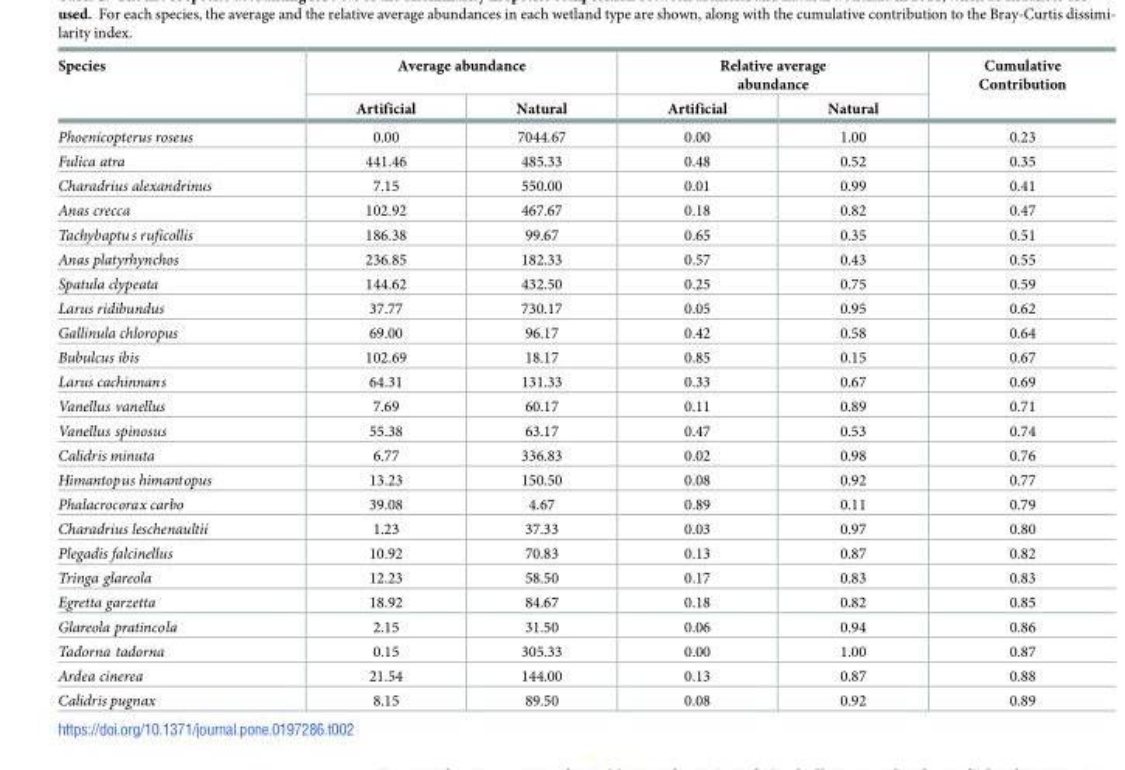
<table><thead><tr><td rowspan="2">Species</td><td colspan="2">Average abundance</td><td colspan="2">Relative average abundance</td><td rowspan="2">Cumulative Contribution</td></tr><tr><td>Artificial</td><td>Natural</td><td>Artificial</td><td>Natural</td></tr></thead><tbody><tr><td>Phoenicopterus roseus</td><td>0.00</td><td>7044.67</td><td>0.00</td><td>1.00</td><td>0.23</td></tr><tr><td>Fulica atra</td><td>441.46</td><td>485.33</td><td>0.48</td><td>0.52</td><td>0.35</td></tr><tr><td>Charadrius alexandrinus</td><td>7.15</td><td>550.00</td><td>0.01</td><td>0.99</td><td>0.41</td></tr><tr><td>Anas crecca</td><td>102.92</td><td>467.67</td><td>0.18</td><td>0.82</td><td>0.47</td></tr><tr><td>Tachybaptus ruficollis</td><td>186.38</td><td>99.67</td><td>0.65</td><td>0.35</td><td>0.51</td></tr><tr><td>Anas platyrhynchos</td><td>236.85</td><td>182.33</td><td>0.57</td><td>0.43</td><td>0.55</td></tr><tr><td>Spatula clypeata</td><td>144.62</td><td>432.50</td><td>0.25</td><td>0.75</td><td>0.59</td></tr><tr><td>Larus ridibundus</td><td>37.77</td><td>730.17</td><td>0.05</td><td>0.95</td><td>0.62</td></tr><tr><td>Gallinula chloropus</td><td>69.00</td><td>96.17</td><td>0.42</td><td>0.58</td><td>0.64</td></tr><tr><td>Bubulcus ibis</td><td>102.69</td><td>18.17</td><td>0.85</td><td>0.15</td><td>0.67</td></tr><tr><td>Larus cachinnans</td><td>64.31</td><td>131.33</td><td>0.33</td><td>0.67</td><td>0.69</td></tr><tr><td>Vanellus vanellus</td><td>7.69</td><td>60.17</td><td>0.11</td><td>0.89</td><td>0.71</td></tr><tr><td>Vanellus spinosus</td><td>55.38</td><td>63.17</td><td>0.47</td><td>0.53</td><td>0.74</td></tr><tr><td>Calidris minuta</td><td>6.77</td><td>336.83</td><td>0.02</td><td>0.98</td><td>0.76</td></tr><tr><td>Himantopus himantopus</td><td>13.23</td><td>150.50</td><td>0.08</td><td>0.92</td><td>0.77</td></tr><tr><td>Phalacrocorax carbo</td><td>39.08</td><td>4.67</td><td>0.89</td><td>0.11</td><td>0.79</td></tr><tr><td>Charadrius leschenaultii</td><td>1.23</td><td>37.33</td><td>0.03</td><td>0.97</td><td>0.80</td></tr><tr><td>Plegadis falcinellus</td><td>10.92</td><td>70.83</td><td>0.13</td><td>0.87</td><td>0.82</td></tr><tr><td>Tringa glareola</td><td>12.23</td><td>58.50</td><td>0.17</td><td>0.83</td><td>0.83</td></tr><tr><td>Egretta garzetta</td><td>18.92</td><td>84.67</td><td>0.18</td><td>0.82</td><td>0.85</td></tr><tr><td>Glareola pratincola</td><td>2.15</td><td>31.50</td><td>0.06</td><td>0.94</td><td>0.86</td></tr><tr><td>Tadorna tadorna</td><td>0.15</td><td>305.33</td><td>0.00</td><td>1.00</td><td>0.87</td></tr><tr><td>Ardea cinerea</td><td>21.54</td><td>144.00</td><td>0.13</td><td>0.87</td><td>0.88</td></tr><tr><td>Calidris pugnax</td><td>8.15</td><td>89.50</td><td>0.08</td><td>0.92</td><td>0.89</td></tr></tbody></table>